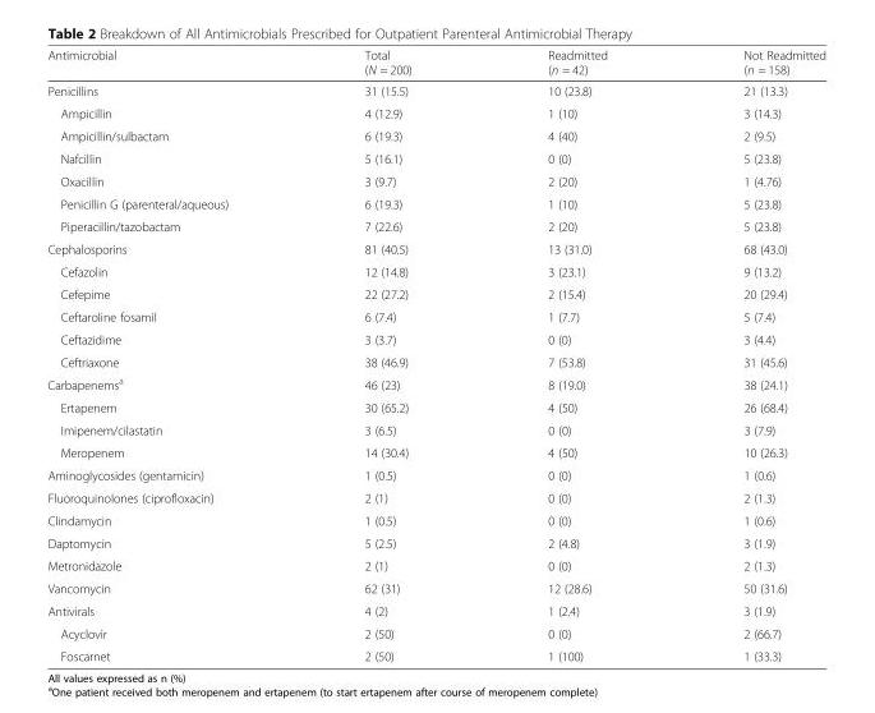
<table><thead><tr><td>Antimicrobial</td><td>Total (N = 200)</td><td>Readmitted (n = 42)</td><td>Not Readmitted (n = 158)</td></tr></thead><tbody><tr><td>Penicillins</td><td>31 (15.5)</td><td>10 (23.8)</td><td>21 (13.3)</td></tr><tr><td>Ampicillin</td><td>4 (12.9)</td><td>1 (10)</td><td>3 (14.3)</td></tr><tr><td>Ampicillin/sulbactam</td><td>6 (19.3)</td><td>4 (40)</td><td>2 (9.5)</td></tr><tr><td>Nafcillin</td><td>5 (16.1)</td><td>0 (0)</td><td>5 (23.8)</td></tr><tr><td>Oxacillin</td><td>3 (9.7)</td><td>2 (20)</td><td>1 (4.76)</td></tr><tr><td>Penicillin G (parenteral/aqueous)</td><td>6 (19.3)</td><td>1 (10)</td><td>5 (23.8)</td></tr><tr><td>Piperacillin/tazobactam</td><td>7 (22.6)</td><td>2 (20)</td><td>5 (23.8)</td></tr><tr><td>Cephalosporins</td><td>81 (40.5)</td><td>13 (31.0)</td><td>68 (43.0)</td></tr><tr><td>Cefazolin</td><td>12 (14.8)</td><td>3 (23.1)</td><td>9 (13.2)</td></tr><tr><td>Cefepime</td><td>22 (27.2)</td><td>2 (15.4)</td><td>20 (29.4)</td></tr><tr><td>Ceftaroline fosamil</td><td>6 (7.4)</td><td>1 (7.7)</td><td>5 (7.4)</td></tr><tr><td>Ceftazidime</td><td>3 (3.7)</td><td>0 (0)</td><td>3 (4.4)</td></tr><tr><td>Ceftriaxone</td><td>38 (46.9)</td><td>7 (53.8)</td><td>31 (45.6)</td></tr><tr><td>Carbapenems<sup>a</sup></td><td>46 (23)</td><td>8 (19.0)</td><td>38 (24.1)</td></tr><tr><td>Ertapenem</td><td>30 (65.2)</td><td>4 (50)</td><td>26 (68.4)</td></tr><tr><td>Imipenem/cilastatin</td><td>3 (6.5)</td><td>0 (0)</td><td>3 (7.9)</td></tr><tr><td>Meropenem</td><td>14 (30.4)</td><td>4 (50)</td><td>10 (26.3)</td></tr><tr><td>Aminoglycosides (gentamicin)</td><td>1 (0.5)</td><td>0 (0)</td><td>1 (0.6)</td></tr><tr><td>Fluoroquinolones (ciprofloxacin)</td><td>2 (1)</td><td>0 (0)</td><td>2 (1.3)</td></tr><tr><td>Clindamycin</td><td>1 (0.5)</td><td>0 (0)</td><td>1 (0.6)</td></tr><tr><td>Daptomycin</td><td>5 (2.5)</td><td>2 (4.8)</td><td>3 (1.9)</td></tr><tr><td>Metronidazole</td><td>2 (1)</td><td>0 (0)</td><td>2 (1.3)</td></tr><tr><td>Vancomycin</td><td>62 (31)</td><td>12 (28.6)</td><td>50 (31.6)</td></tr><tr><td>Antivirals</td><td>4 (2)</td><td>1 (2.4)</td><td>3 (1.9)</td></tr><tr><td>Acyclovir</td><td>2 (50)</td><td>0 (0)</td><td>2 (66.7)</td></tr><tr><td>Foscarnet</td><td>2 (50)</td><td>1 (100)</td><td>1 (33.3)</td></tr></tbody></table>